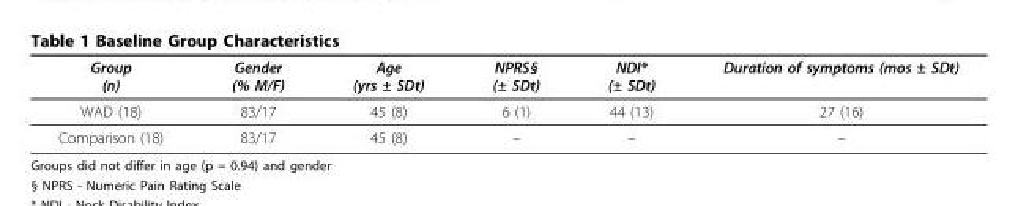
<table><thead><tr><td>Group (n)</td><td>Gender (% M/F)</td><td>Age (yrs ± SDŧ)</td><td>NPRS§ (± SDŧ)</td><td>NDI* (± SDŧ)</td><td>Duration of symptoms (mos ± SDŧ)</td></tr></thead><tbody><tr><td>WAD (18)</td><td>83/17</td><td>45 (8)</td><td>6 (1)</td><td>44 (13)</td><td>27 (16)</td></tr><tr><td>Comparison (18)</td><td>83/17</td><td>45 (8)</td><td>–</td><td>–</td><td>–</td></tr></tbody></table>